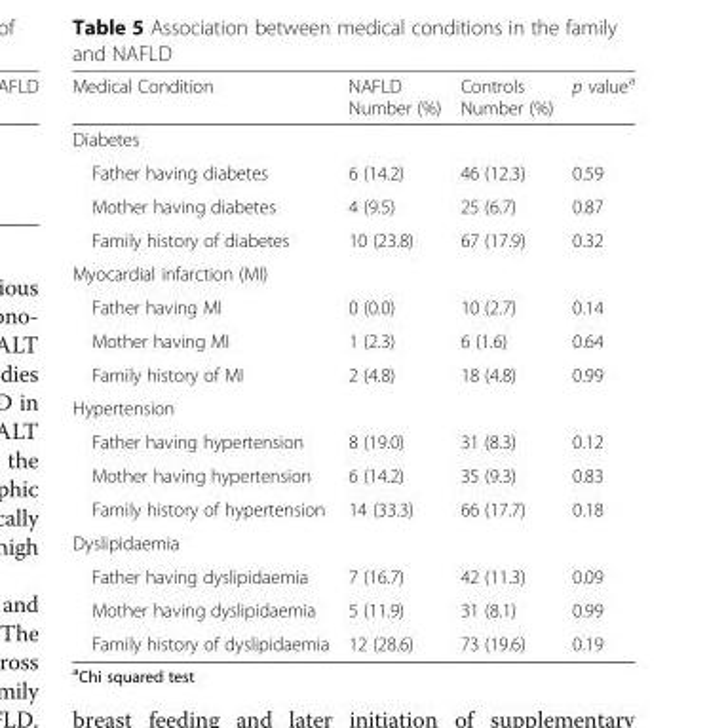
<table><thead><tr><td>Medical Condition</td><td>NAFLD Number (%)</td><td>Controls Number (%)</td><td>p value<sup>a</sup></td></tr></thead><tbody><tr><td colspan="4">Diabetes</td></tr><tr><td>Father having diabetes</td><td>6 (14.2)</td><td>46 (12.3)</td><td>0.59</td></tr><tr><td>Mother having diabetes</td><td>4 (9.5)</td><td>25 (6.7)</td><td>0.87</td></tr><tr><td>Family history of diabetes</td><td>10 (23.8)</td><td>67 (17.9)</td><td>0.32</td></tr><tr><td colspan="4">Myocardial infarction (MI)</td></tr><tr><td>Father having MI</td><td>0 (0.0)</td><td>10 (2.7)</td><td>0.14</td></tr><tr><td>Mother having MI</td><td>1 (2.3)</td><td>6 (1.6)</td><td>0.64</td></tr><tr><td>Family history of MI</td><td>2 (4.8)</td><td>18 (4.8)</td><td>0.99</td></tr><tr><td colspan="4">Hypertension</td></tr><tr><td>Father having hypertension</td><td>8 (19.0)</td><td>31 (8.3)</td><td>0.12</td></tr><tr><td>Mother having hypertension</td><td>6 (14.2)</td><td>35 (9.3)</td><td>0.83</td></tr><tr><td>Family history of hypertension</td><td>14 (33.3)</td><td>66 (17.7)</td><td>0.18</td></tr><tr><td colspan="4">Dyslipidaemia</td></tr><tr><td>Father having dyslipidaemia</td><td>7 (16.7)</td><td>42 (11.3)</td><td>0.09</td></tr><tr><td>Mother having dyslipidaemia</td><td>5 (11.9)</td><td>31 (8.1)</td><td>0.99</td></tr><tr><td>Family history of dyslipidaemia</td><td>12 (28.6)</td><td>73 (19.6)</td><td>0.19</td></tr></tbody></table>